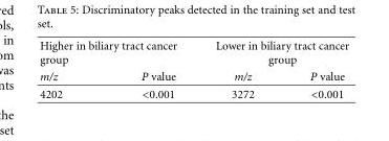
<table><thead><tr><td colspan="2">Higher in biliary tract cancer group</td><td colspan="2">Lower in biliary tract cancer group</td></tr><tr><td>m/z</td><td>P value</td><td>m/z</td><td>P value</td></tr></thead><tbody><tr><td>4202</td><td>&lt;0.001</td><td>3272</td><td>&lt;0.001</td></tr></tbody></table>